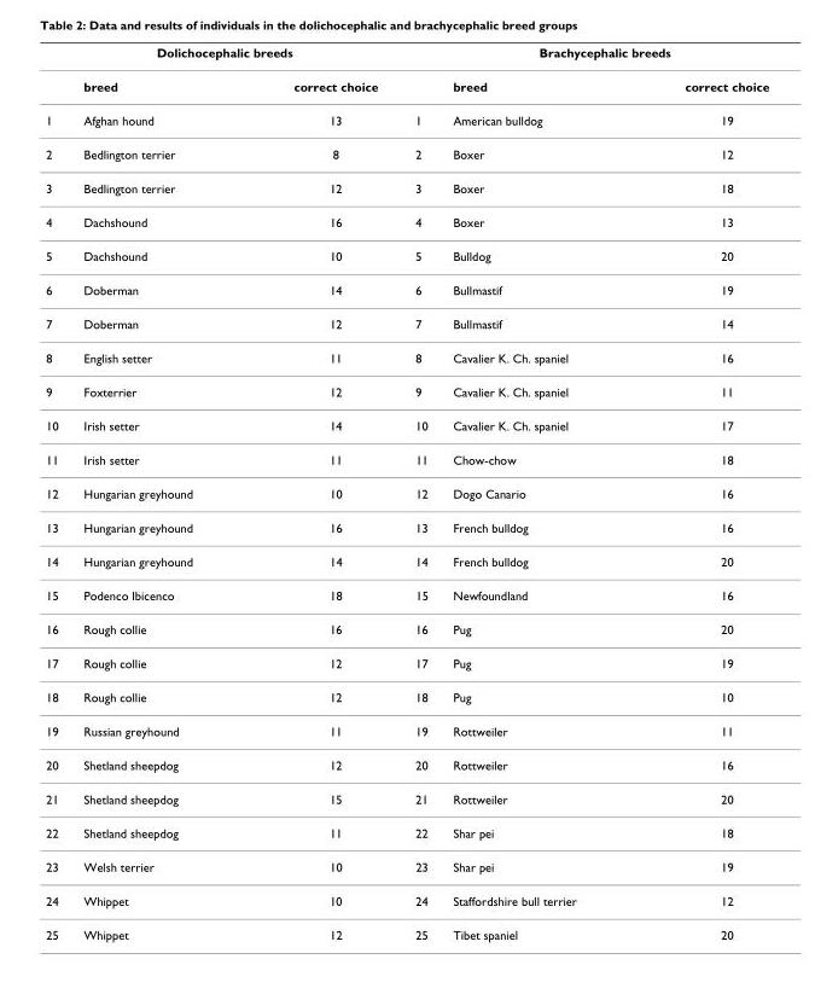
<table><thead><tr><td colspan="3">Dolichocephalic breeds</td><td colspan="3">Brachycephalic breeds</td></tr><tr><td></td><td>breed</td><td>correct choice</td><td></td><td>breed</td><td>correct choice</td></tr></thead><tbody><tr><td>1</td><td>Afghan hound</td><td>13</td><td>1</td><td>American bulldog</td><td>19</td></tr><tr><td>2</td><td>Bedlington terrier</td><td>8</td><td>2</td><td>Boxer</td><td>12</td></tr><tr><td>3</td><td>Bedlington terrier</td><td>12</td><td>3</td><td>Boxer</td><td>18</td></tr><tr><td>4</td><td>Dachshound</td><td>16</td><td>4</td><td>Boxer</td><td>13</td></tr><tr><td>5</td><td>Dachshound</td><td>10</td><td>5</td><td>Bulldog</td><td>20</td></tr><tr><td>6</td><td>Doberman</td><td>14</td><td>6</td><td>Bullmastif</td><td>19</td></tr><tr><td>7</td><td>Doberman</td><td>12</td><td>7</td><td>Bullmastif</td><td>14</td></tr><tr><td>8</td><td>English setter</td><td>11</td><td>8</td><td>Cavalier K. Ch. spaniel</td><td>16</td></tr><tr><td>9</td><td>Foxterrier</td><td>12</td><td>9</td><td>Cavalier K. Ch. spaniel</td><td>11</td></tr><tr><td>10</td><td>Irish setter</td><td>14</td><td>10</td><td>Cavalier K. Ch. spaniel</td><td>17</td></tr><tr><td>11</td><td>Irish setter</td><td>11</td><td>11</td><td>Chow-chow</td><td>18</td></tr><tr><td>12</td><td>Hungarian greyhound</td><td>10</td><td>12</td><td>Dogo Canario</td><td>16</td></tr><tr><td>13</td><td>Hungarian greyhound</td><td>16</td><td>13</td><td>French bulldog</td><td>16</td></tr><tr><td>14</td><td>Hungarian greyhound</td><td>14</td><td>14</td><td>French bulldog</td><td>20</td></tr><tr><td>15</td><td>Podenco Ibicenco</td><td>18</td><td>15</td><td>Newfoundland</td><td>16</td></tr><tr><td>16</td><td>Rough collie</td><td>16</td><td>16</td><td>Pug</td><td>20</td></tr><tr><td>17</td><td>Rough collie</td><td>12</td><td>17</td><td>Pug</td><td>19</td></tr><tr><td>18</td><td>Rough collie</td><td>12</td><td>18</td><td>Pug</td><td>10</td></tr><tr><td>19</td><td>Russian greyhound</td><td>11</td><td>19</td><td>Rottweiler</td><td>11</td></tr><tr><td>20</td><td>Shetland sheepdog</td><td>12</td><td>20</td><td>Rottweiler</td><td>16</td></tr><tr><td>21</td><td>Shetland sheepdog</td><td>15</td><td>21</td><td>Rottweiler</td><td>20</td></tr><tr><td>22</td><td>Shetland sheepdog</td><td>11</td><td>22</td><td>Shar pei</td><td>18</td></tr><tr><td>23</td><td>Welsh terrier</td><td>10</td><td>23</td><td>Shar pei</td><td>19</td></tr><tr><td>24</td><td>Whippet</td><td>10</td><td>24</td><td>Staffordshire bull terrier</td><td>12</td></tr><tr><td>25</td><td>Whippet</td><td>12</td><td>25</td><td>Tibet spaniel</td><td>20</td></tr></tbody></table>